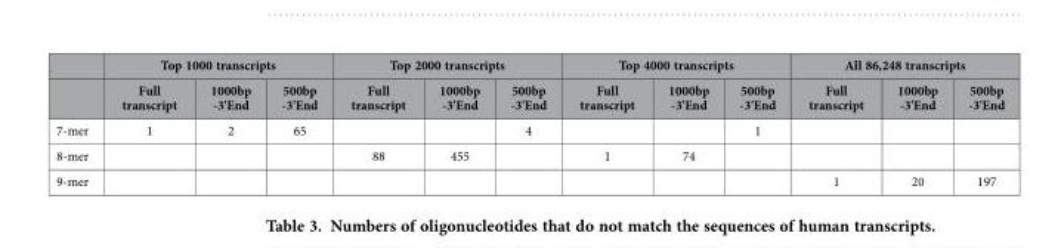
<table><thead><tr><td rowspan="2"></td><td colspan="3">Top 1000 transcripts</td><td colspan="3">Top 2000 transcripts</td><td colspan="3">Top 4000 transcripts</td><td colspan="3">All 86,248 transcripts</td></tr><tr><td>Full transcript</td><td>1000bp -3&#x27;End</td><td>500bp -3&#x27;End</td><td>Full transcript</td><td>1000bp -3&#x27;End</td><td>500bp -3&#x27;End</td><td>Full transcript</td><td>1000bp -3&#x27;End</td><td>500bp -3&#x27;End</td><td>Full transcript</td><td>1000bp -3&#x27;End</td><td>500bp -3&#x27;End</td></tr></thead><tbody><tr><td>7-mer</td><td>1</td><td>2</td><td>65</td><td></td><td></td><td>4</td><td></td><td></td><td>1</td><td></td><td></td><td></td></tr><tr><td>8-mer</td><td></td><td></td><td></td><td>88</td><td>455</td><td></td><td>1</td><td>74</td><td></td><td></td><td></td><td></td></tr><tr><td>9-mer</td><td></td><td></td><td></td><td></td><td></td><td></td><td></td><td></td><td></td><td>1</td><td>20</td><td>197</td></tr></tbody></table>